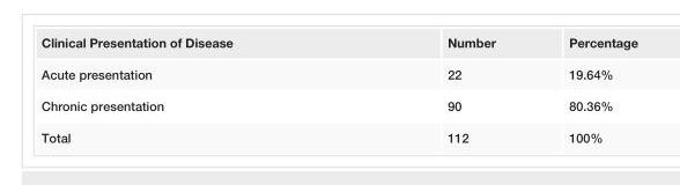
<table><tbody><tr><td>Clinical Presentation of Disease</td><td>Number</td><td>Percentage</td></tr><tr><td>Acute presentation</td><td>22</td><td>19.64%</td></tr><tr><td>Chronic presentation</td><td>90</td><td>80.36%</td></tr><tr><td>Total</td><td>112</td><td>100%</td></tr></tbody></table>